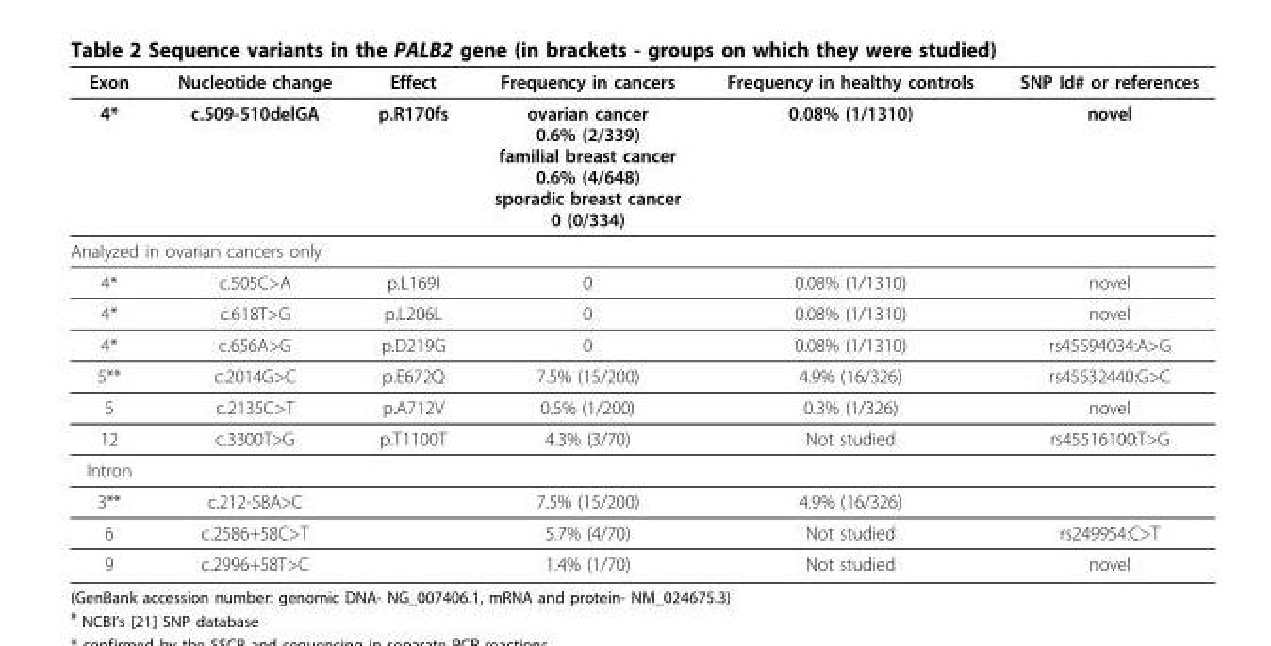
<table><thead><tr><td>Exon</td><td>Nucleotide change</td><td>Effect</td><td>Frequency in cancers</td><td>Frequency in healthy controls</td><td>SNP Id# or references</td></tr></thead><tbody><tr><td>4*</td><td>c.509-510delGA</td><td>p.R170fs</td><td>ovarian cancer 0.6% (2/339) familial breast cancer 0.6% (4/648) sporadic breast cancer 0 (0/334)</td><td>0.08% (1/1310)</td><td>novel</td></tr><tr><td colspan="6">Analyzed in ovarian cancers only</td></tr><tr><td>4*</td><td>c.505C&gt;A</td><td>p.L169I</td><td>0</td><td>0.08% (1/1310)</td><td>novel</td></tr><tr><td>4*</td><td>c.618T&gt;G</td><td>p.L206L</td><td>0</td><td>0.08% (1/1310)</td><td>novel</td></tr><tr><td>4*</td><td>c.656A&gt;G</td><td>p.D219G</td><td>0</td><td>0.08% (1/1310)</td><td>rs45594034:A&gt;G</td></tr><tr><td>5**</td><td>c.2014G&gt;C</td><td>p.E672Q</td><td>7.5% (15/200)</td><td>4.9% (16/326)</td><td>rs45532440:G&gt;C</td></tr><tr><td>5</td><td>c.2135C&gt;T</td><td>p.A712V</td><td>0.5% (1/200)</td><td>0.3% (1/326)</td><td>novel</td></tr><tr><td>12</td><td>c.3300T&gt;G</td><td>p.T1100T</td><td>4.3% (3/70)</td><td>Not studied</td><td>rs45516100:T&gt;G</td></tr><tr><td colspan="6">Intron</td></tr><tr><td>3**</td><td>c.212-58A&gt;C</td><td></td><td>7.5% (15/200)</td><td>4.9% (16/326)</td><td></td></tr><tr><td>6</td><td>c.2586+58C&gt;T</td><td></td><td>5.7% (4/70)</td><td>Not studied</td><td>rs249954:C&gt;T</td></tr><tr><td>9</td><td>c.2996+58T&gt;C</td><td></td><td>1.4% (1/70)</td><td>Not studied</td><td>novel</td></tr></tbody></table>